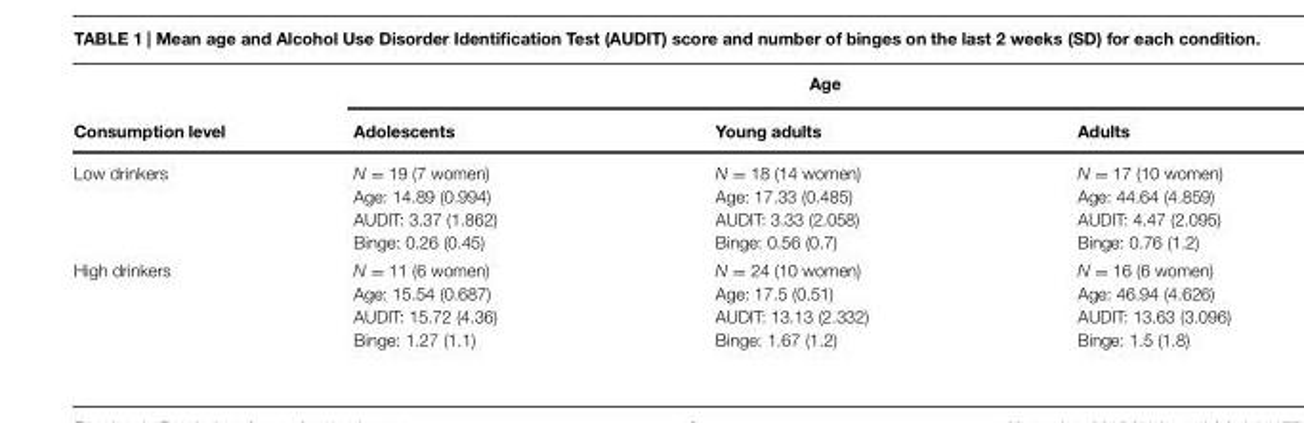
<table><thead><tr><td rowspan="2">Consumption level</td><td colspan="3">Age</td></tr><tr><td>Adolescents</td><td>Young adults</td><td>Adults</td></tr></thead><tbody><tr><td>Low drinkers</td><td>N = 19 (7 women) Age: 14.89 (0.994) AUDIT: 3.37 (1.862) Binge: 0.26 (0.45)</td><td>N = 18 (14 women) Age: 17.33 (0.485) AUDIT: 3.33 (2.058) Binge: 0.56 (0.7)</td><td>N = 17 (10 women) Age: 44.64 (4.859) AUDIT: 4.47 (2.095) Binge: 0.76 (1.2)</td></tr><tr><td>High drinkers</td><td>N = 11 (6 women) Age: 15.54 (0.687) AUDIT: 15.72 (4.36) Binge: 1.27 (1.1)</td><td>N = 24 (10 women) Age: 17.5 (0.51) AUDIT: 13.13 (2.332) Binge: 1.67 (1.2)</td><td>N = 16 (6 women) Age: 46.94 (4.626) AUDIT: 13.63 (3.096) Binge: 1.5 (1.8)</td></tr></tbody></table>